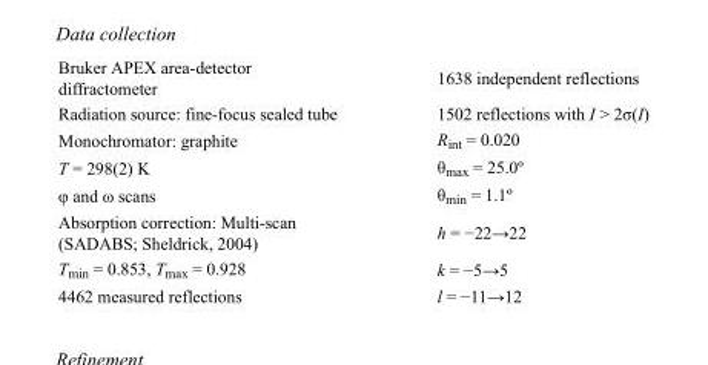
<table><tbody><tr><td>Bruker APEX area-detector diffractometer</td><td>1638 independent reflections</td></tr><tr><td>Radiation source: fine-focus sealed tube</td><td>1502 reflections with I &gt; 2σ(I)</td></tr><tr><td>Monochromator: graphite</td><td>R<sub>int</sub> = 0.020</td></tr><tr><td>T = 298(2) K</td><td>θ<sub>max</sub> = 25.0º</td></tr><tr><td>φ and ω scans</td><td>θ<sub>min</sub> = 1.1º</td></tr><tr><td>Absorption correction: Multi-scan (SADABS; Sheldrick, 2004)</td><td>h = −22→22</td></tr><tr><td>T<sub>min</sub> = 0.853, T<sub>max</sub> = 0.928</td><td>k = −5→5</td></tr><tr><td>4462 measured reflections</td><td>l = −11→12</td></tr></tbody></table>